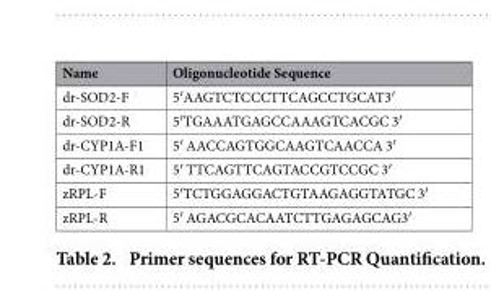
<table><thead><tr><td>Name</td><td>Oligonucleotide Sequence</td></tr></thead><tbody><tr><td>dr-SOD2-F</td><td>5′ AAGTCTCCCTTCAGCCTGCAT3′</td></tr><tr><td>dr-SOD2-R</td><td>5′ TGAAATGAGCCAAAGTCACGC 3′</td></tr><tr><td>dr-CYP1A-F1</td><td>5′ AACCAGTGGCAAGTCAACCA 3′</td></tr><tr><td>dr-CYP1A-R1</td><td>5′ TTCAGTTCAGTACCGTCCGC 3′</td></tr><tr><td>zRPL-F</td><td>5′ TCTGGAGGACTGTAAGAGGTATGC 3′</td></tr><tr><td>zRPL-R</td><td>5′ AGACGCACAATCTTGAGAGCAG3′</td></tr></tbody></table>